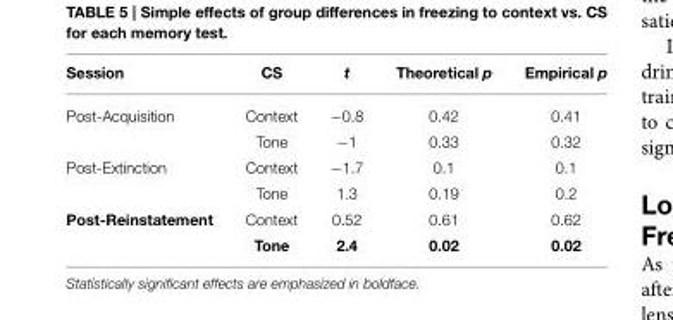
<table><thead><tr><td>Session</td><td>CS</td><td>t</td><td>Theoretical p</td><td>Empirical p</td></tr></thead><tbody><tr><td rowspan="2">Post-Acquisition</td><td>Context</td><td>−0.8</td><td>0.42</td><td>0.41</td></tr><tr><td>Tone</td><td>−1</td><td>0.33</td><td>0.32</td></tr><tr><td rowspan="2">Post-Extinction</td><td>Context</td><td>−1.7</td><td>0.1</td><td>0.1</td></tr><tr><td>Tone</td><td>1.3</td><td>0.19</td><td>0.2</td></tr><tr><td rowspan="2">Post-Reinstatement</td><td>Context</td><td>0.52</td><td>0.61</td><td>0.62</td></tr><tr><td>Tone</td><td>2.4</td><td>0.02</td><td>0.02</td></tr></tbody></table>